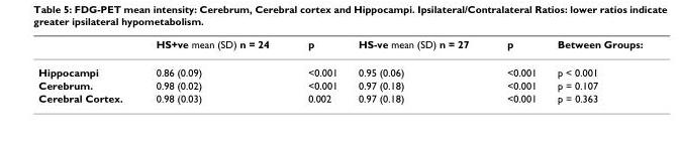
<table><thead><tr><td></td><td>HS+ve mean (SD) n = 24</td><td>p</td><td>HS-ve mean (SD) n = 27</td><td>p</td><td>Between Groups:</td></tr></thead><tbody><tr><td>Hippocampi</td><td>0.86 (0.09)</td><td>&lt;0.001</td><td>0.95 (0.06)</td><td>&lt;0.001</td><td>p &lt; 0.001</td></tr><tr><td>Cerebrum.</td><td>0.98 (0.02)</td><td>&lt;0.001</td><td>0.97 (0.18)</td><td>&lt;0.001</td><td>p = 0.107</td></tr><tr><td>Cerebral Cortex.</td><td>0.98 (0.03)</td><td>0.002</td><td>0.97 (0.18)</td><td>&lt;0.001</td><td>p = 0.363</td></tr></tbody></table>